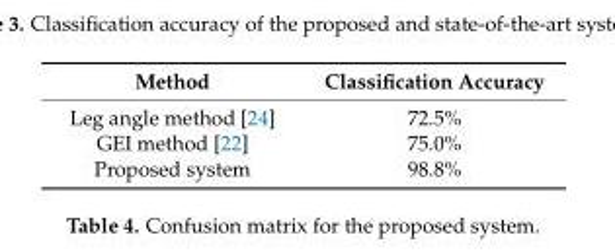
<table><thead><tr><td>Method</td><td>Classification Accuracy</td></tr></thead><tbody><tr><td>Leg angle method [24]</td><td>72.5%</td></tr><tr><td>GEI method [22]</td><td>75.0%</td></tr><tr><td>Proposed system</td><td>98.8%</td></tr></tbody></table>